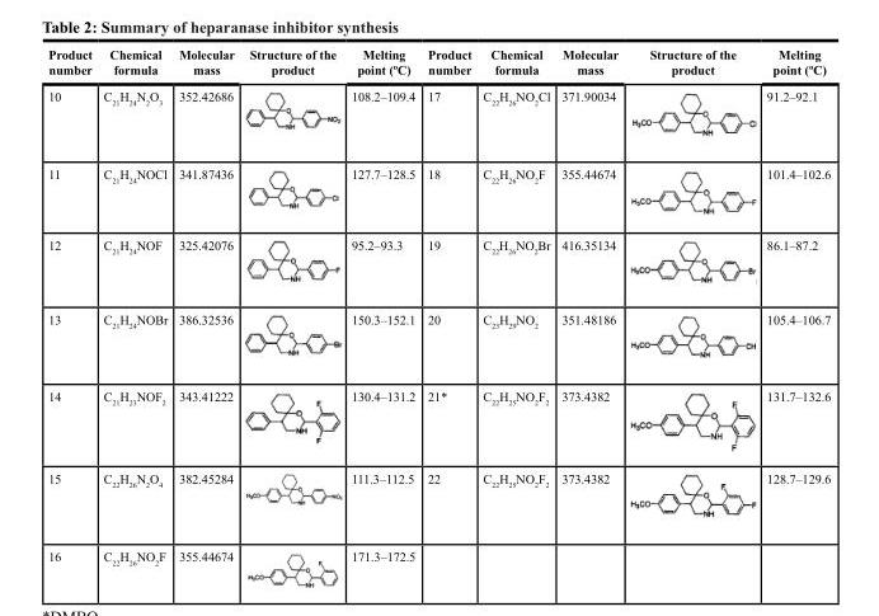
<table><thead><tr><td>Product number</td><td>Chemical formula</td><td>Molecular mass</td><td>structure of the product</td><td>Melting point (ºC)</td><td>Product number</td><td>Chemical formula</td><td>Molecular mass</td><td>structure of the product</td><td>Melting point (ºC)</td></tr></thead><tbody><tr><td>10</td><td>C<sub>21</sub>H<sub>24</sub>N<sub>2</sub>O<sub>3</sub></td><td>352.42686</td><td></td><td>108.2–109.4</td><td>17</td><td>C<sub>22</sub>H<sub>26</sub>NO<sub>2</sub>Cl</td><td>371.90034</td><td></td><td>91.2–92.1</td></tr><tr><td>11</td><td>C<sub>21</sub>H<sub>24</sub>NOCl</td><td>341.87436</td><td></td><td>127.7–128.5</td><td>18</td><td>C<sub>22</sub>H<sub>26</sub>NO<sub>2</sub>F</td><td>355.44674</td><td></td><td>101.4–102.6</td></tr><tr><td>12</td><td>C<sub>21</sub>H<sub>24</sub>NOF</td><td>325.42076</td><td></td><td>95.2–93.3</td><td>19</td><td>C<sub>22</sub>H<sub>26</sub>NO<sub>2</sub>Br</td><td>416.35134</td><td></td><td>86.1–87.2</td></tr><tr><td>13</td><td>C<sub>21</sub>H<sub>24</sub>NOBr</td><td>386.32536</td><td></td><td>150.3–152.1</td><td>20</td><td>C<sub>23</sub>H<sub>29</sub>NO<sub>2</sub></td><td>351.48186</td><td></td><td>105.4–106.7</td></tr><tr><td>14</td><td>C<sub>21</sub>H<sub>23</sub>NOF<sub>2</sub></td><td>343.41222</td><td></td><td>130.4–131.2</td><td>21*</td><td>C<sub>22</sub>H<sub>25</sub>NO<sub>2</sub>F<sub>2</sub></td><td>373.4382</td><td></td><td>131.7–132.6</td></tr><tr><td>15</td><td>C<sub>22</sub>H<sub>26</sub>N<sub>2</sub>O<sub>4</sub></td><td>382.45284</td><td></td><td>111.3–112.5</td><td>22</td><td>C<sub>22</sub>H<sub>25</sub>NO<sub>2</sub>F<sub>2</sub></td><td>373.4382</td><td></td><td>128.7–129.6</td></tr><tr><td>16</td><td>C<sub>22</sub>H<sub>26</sub>NO<sub>2</sub>F</td><td>355.44674</td><td></td><td>171.3–172.5</td><td></td><td></td><td></td><td></td><td></td></tr></tbody></table>